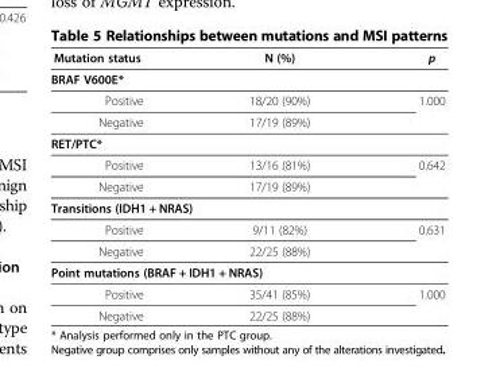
<table><thead><tr><td>Mutation status</td><td>N (%)</td><td>p</td></tr></thead><tbody><tr><td colspan="3">BRAF V600E*</td></tr><tr><td>Positive</td><td>18/20 (90%)</td><td rowspan="2">1.000</td></tr><tr><td>Negative</td><td>17/19 (89%)</td></tr><tr><td colspan="3">RET/PTC*</td></tr><tr><td>Positive</td><td>13/16 (81%)</td><td rowspan="2">0.642</td></tr><tr><td>Negative</td><td>17/19 (89%)</td></tr><tr><td colspan="3">Transitions (IDH1 + NRAS)</td></tr><tr><td>Positive</td><td>9/11 (82%)</td><td rowspan="2">0.631</td></tr><tr><td>Negative</td><td>22/25 (88%)</td></tr><tr><td colspan="3">Point mutations (BRAF + IDH1 + NRAS)</td></tr><tr><td>Positive</td><td>35/41 (85%)</td><td rowspan="2">1.000</td></tr><tr><td>Negative</td><td>22/25 (88%)</td></tr></tbody></table>